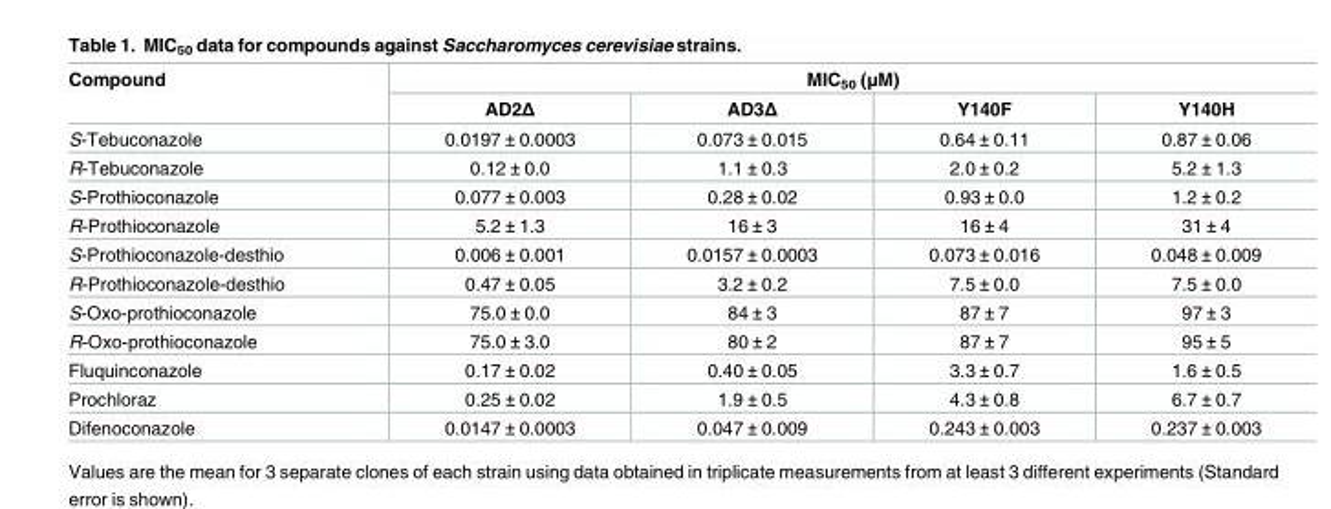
<table><thead><tr><td rowspan="2">Compound</td><td colspan="4">MIC<sub>50</sub> (μM)</td></tr><tr><td>AD2Δ</td><td>AD3Δ</td><td>Y140F</td><td>Y140H</td></tr></thead><tbody><tr><td>S-Tebuconazole</td><td>0.0197 ± 0.0003</td><td>0.073 ± 0.015</td><td>0.64 ± 0.11</td><td>0.87 ± 0.06</td></tr><tr><td>R-Tebuconazole</td><td>0.12 ± 0.0</td><td>1.1 ± 0.3</td><td>2.0 ± 0.2</td><td>5.2 ± 1.3</td></tr><tr><td>S-Prothioconazole</td><td>0.077 ± 0.003</td><td>0.28 ± 0.02</td><td>0.93 ± 0.0</td><td>1.2 ± 0.2</td></tr><tr><td>R-Prothioconazole</td><td>5.2 ± 1.3</td><td>16 ± 3</td><td>16 ± 4</td><td>31 ± 4</td></tr><tr><td>S-Prothioconazole-desthio</td><td>0.006 ± 0.001</td><td>0.0157 ± 0.0003</td><td>0.073 ± 0.016</td><td>0.048 ± 0.009</td></tr><tr><td>R-Prothioconazole-desthio</td><td>0.47 ± 0.05</td><td>3.2 ± 0.2</td><td>7.5 ± 0.0</td><td>7.5 ± 0.0</td></tr><tr><td>S-Oxo-prothioconazole</td><td>75.0 ± 0.0</td><td>84 ± 3</td><td>87 ± 7</td><td>97 ± 3</td></tr><tr><td>R-Oxo-prothioconazole</td><td>75.0 ± 3.0</td><td>80 ± 2</td><td>87 ± 7</td><td>95 ± 5</td></tr><tr><td>Fluquinconazole</td><td>0.17 ± 0.02</td><td>0.40 ± 0.05</td><td>3.3 ± 0.7</td><td>1.6 ± 0.5</td></tr><tr><td>Prochloraz</td><td>0.25 ± 0.02</td><td>1.9 ± 0.5</td><td>4.3 ± 0.8</td><td>6.7 ± 0.7</td></tr><tr><td>Difenoconazole</td><td>0.0147 ± 0.0003</td><td>0.047 ± 0.009</td><td>0.243 ± 0.003</td><td>0.237 ± 0.003</td></tr></tbody></table>